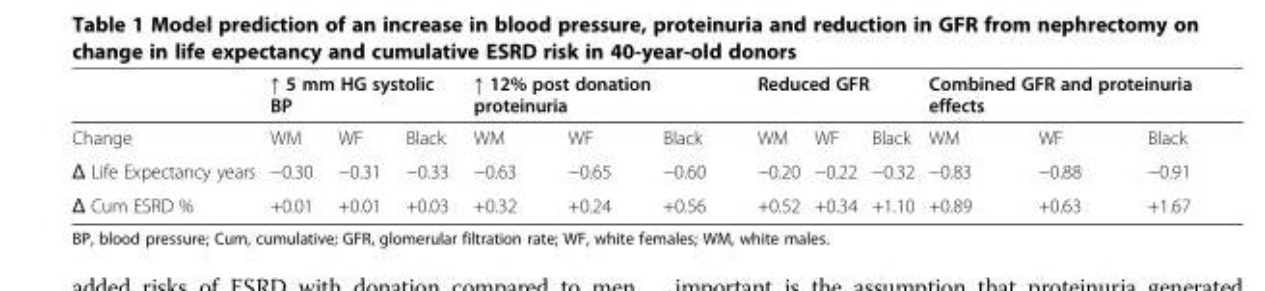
<table><thead><tr><td rowspan="2">Change</td><td colspan="3">↑ 5 mm HG systolic BP</td><td colspan="3">↑ 12% post donation proteinuria</td><td colspan="3">Reduced GFR</td><td colspan="3">Combined GFR and proteinuria effects</td></tr><tr><td>WM</td><td>WF</td><td>Black</td><td>WM</td><td>WF</td><td>Black</td><td>WM</td><td>WF</td><td>Black</td><td>WM</td><td>WF</td><td>Black</td></tr></thead><tbody><tr><td>Δ Life Expectancy years</td><td>−0.30</td><td>−0.31</td><td>−0.33</td><td>−0.63</td><td>−0.65</td><td>−0.60</td><td>−0.20</td><td>−0.22</td><td>−0.32</td><td>−0.83</td><td>−0.88</td><td>−0.91</td></tr><tr><td>Δ Cum ESRD %</td><td>+0.01</td><td>+0.01</td><td>+0.03</td><td>+0.32</td><td>+0.24</td><td>+0.56</td><td>+0.52</td><td>+0.34</td><td>+1.10</td><td>+0.89</td><td>+0.63</td><td>+1.67</td></tr></tbody></table>